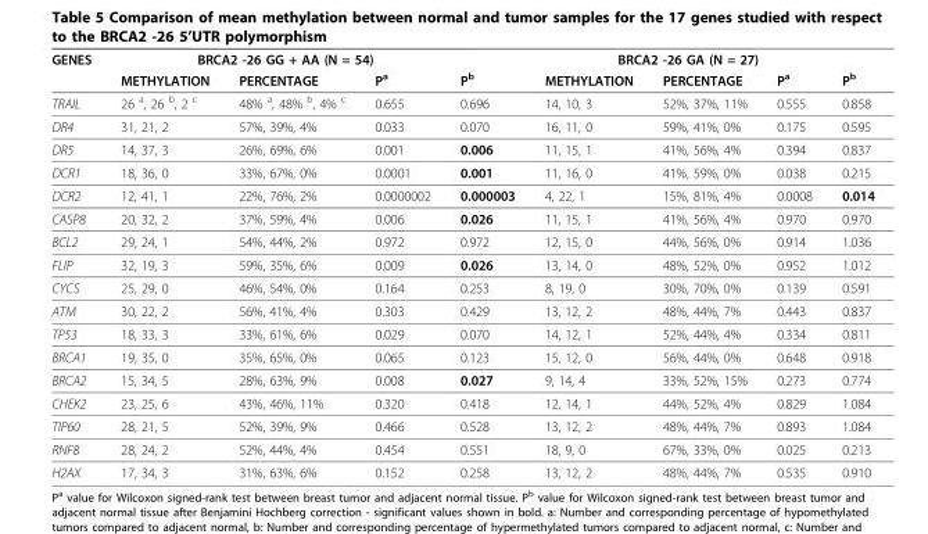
<table><thead><tr><td rowspan="2">GENES</td><td colspan="3">BRCA2 -26 GG + AA (N = 54)</td><td rowspan="2">P<sup>b</sup></td><td colspan="3">BRCA2 -26 GA (N = 27)</td><td rowspan="2">P<sup>b</sup></td></tr><tr><td>METHYLATION</td><td>PERCENTAGE</td><td>P<sup>a</sup></td><td>METHYLATION</td><td>PERCENTAGE</td><td>P<sup>a</sup></td></tr></thead><tbody><tr><td>TRAIL</td><td>26 <sup>a</sup>, 26 <sup>b</sup>, 2 <sup>c</sup></td><td>48% <sup>a</sup>, 48% <sup>b</sup>, 4% <sup>c</sup></td><td>0.655</td><td>0.696</td><td>14, 10, 3</td><td>52%, 37%, 11%</td><td>0.555</td><td>0.858</td></tr><tr><td>DR4</td><td>31, 21, 2</td><td>57%, 39%, 4%</td><td>0.033</td><td>0.070</td><td>16, 11, 0</td><td>59%, 41%, 0%</td><td>0.175</td><td>0.595</td></tr><tr><td>DR5</td><td>14, 37, 3</td><td>26%, 69%, 6%</td><td>0.001</td><td>0.006</td><td>11, 15, 1</td><td>41%, 56%, 4%</td><td>0.394</td><td>0.837</td></tr><tr><td>DCR1</td><td>18, 36, 0</td><td>33%, 67%, 0%</td><td>0.0001</td><td>0.001</td><td>11, 16, 0</td><td>41%, 59%, 0%</td><td>0.038</td><td>0.215</td></tr><tr><td>DCR2</td><td>12, 41, 1</td><td>22%, 76%, 2%</td><td>0.0000002</td><td>0.000003</td><td>4, 22, 1</td><td>15%, 81%, 4%</td><td>0.0008</td><td>0.014</td></tr><tr><td>CASP8</td><td>20, 32, 2</td><td>37%, 59%, 4%</td><td>0.006</td><td>0.026</td><td>11, 15, 1</td><td>41%, 56%, 4%</td><td>0.970</td><td>0.970</td></tr><tr><td>BCL2</td><td>29, 24, 1</td><td>54%, 44%, 2%</td><td>0.972</td><td>0.972</td><td>12, 15, 0</td><td>44%, 56%, 0%</td><td>0.914</td><td>1.036</td></tr><tr><td>FLIP</td><td>32, 19, 3</td><td>59%, 35%, 6%</td><td>0.009</td><td>0.026</td><td>13, 14, 0</td><td>48%, 52%, 0%</td><td>0.952</td><td>1.012</td></tr><tr><td>CYCS</td><td>25, 29, 0</td><td>46%, 54%, 0%</td><td>0.164</td><td>0.253</td><td>8, 19, 0</td><td>30%, 70%, 0%</td><td>0.139</td><td>0.591</td></tr><tr><td>ATM</td><td>30, 22, 2</td><td>56%, 41%, 4%</td><td>0.303</td><td>0.429</td><td>13, 12, 2</td><td>48%, 44%, 7%</td><td>0.443</td><td>0.837</td></tr><tr><td>TP53</td><td>18, 33, 3</td><td>33%, 61%, 6%</td><td>0.029</td><td>0.070</td><td>14, 12, 1</td><td>52%, 44%, 4%</td><td>0.334</td><td>0.811</td></tr><tr><td>BRCA1</td><td>19, 35, 0</td><td>35%, 65%, 0%</td><td>0.065</td><td>0.123</td><td>15, 12, 0</td><td>56%, 44%, 0%</td><td>0.648</td><td>0.918</td></tr><tr><td>BRCA2</td><td>15, 34, 5</td><td>28%, 63%, 9%</td><td>0.008</td><td>0.027</td><td>9, 14, 4</td><td>33%, 52%, 15%</td><td>0.273</td><td>0.774</td></tr><tr><td>CHEK2</td><td>23, 25, 6</td><td>43%, 46%, 11%</td><td>0.320</td><td>0.418</td><td>12, 14, 1</td><td>44%, 52%, 4%</td><td>0.829</td><td>1.084</td></tr><tr><td>TIP60</td><td>28, 21, 5</td><td>52%, 39%, 9%</td><td>0.466</td><td>0.528</td><td>13, 12, 2</td><td>48%, 44%, 7%</td><td>0.893</td><td>1.084</td></tr><tr><td>RNF8</td><td>28, 24, 2</td><td>52%, 44%, 4%</td><td>0.454</td><td>0.551</td><td>18, 9, 0</td><td>67%, 33%, 0%</td><td>0.025</td><td>0.213</td></tr><tr><td>H2AX</td><td>17, 34, 3</td><td>31%, 63%, 6%</td><td>0.152</td><td>0.258</td><td>13, 12, 2</td><td>48%, 44%, 7%</td><td>0.535</td><td>0.910</td></tr></tbody></table>